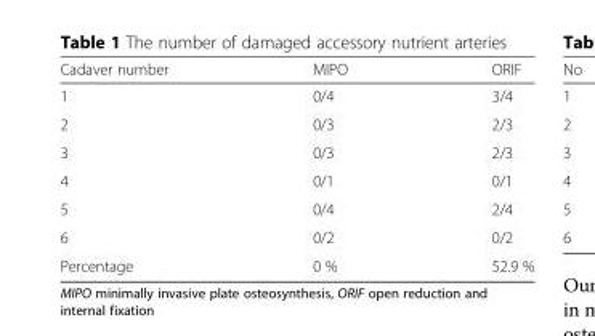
<table><thead><tr><td>Cadaver number</td><td>MIPO</td><td>ORIF</td></tr></thead><tbody><tr><td>1</td><td>0/4</td><td>3/4</td></tr><tr><td>2</td><td>0/3</td><td>2/3</td></tr><tr><td>3</td><td>0/3</td><td>2/3</td></tr><tr><td>4</td><td>0/1</td><td>0/1</td></tr><tr><td>5</td><td>0/4</td><td>2/4</td></tr><tr><td>6</td><td>0/2</td><td>0/2</td></tr><tr><td>Percentage</td><td>0 %</td><td>52.9 %</td></tr></tbody></table>